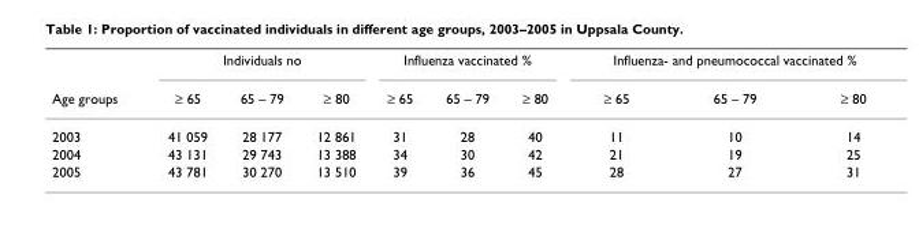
<table><thead><tr><td rowspan="2">Age groups</td><td colspan="3">Individuals no</td><td colspan="3">Influenza vaccinated %</td><td colspan="3">Influenza- and pneumococcal vaccinated %</td></tr><tr><td>≥ 65</td><td>65 – 79</td><td>≥ 80</td><td>≥ 65</td><td>65 – 79</td><td>≥ 80</td><td>≥ 65</td><td>65 – 79</td><td>≥ 80</td></tr></thead><tbody><tr><td>2003</td><td>41 059</td><td>28 177</td><td>12 861</td><td>31</td><td>28</td><td>40</td><td>11</td><td>10</td><td>14</td></tr><tr><td>2004</td><td>43 131</td><td>29 743</td><td>13 388</td><td>34</td><td>30</td><td>42</td><td>21</td><td>19</td><td>25</td></tr><tr><td>2005</td><td>43 781</td><td>30 270</td><td>13 510</td><td>39</td><td>36</td><td>45</td><td>28</td><td>27</td><td>31</td></tr></tbody></table>